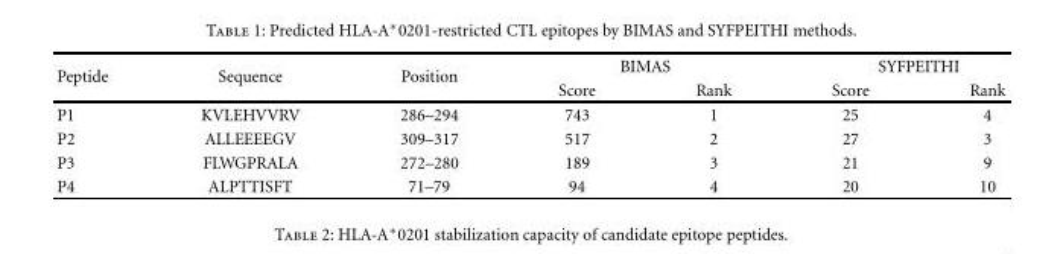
<table><thead><tr><td rowspan="2">Peptide</td><td rowspan="2">Sequence</td><td rowspan="2">Position</td><td colspan="2">BIMAS</td><td colspan="2">SYFPEITHI</td></tr><tr><td>Score</td><td>Rank</td><td>Score</td><td>Rank</td></tr></thead><tbody><tr><td>P1</td><td>KVLEHVVRV</td><td>286–294</td><td>743</td><td>1</td><td>25</td><td>4</td></tr><tr><td>P2</td><td>ALLEEEEGV</td><td>309–317</td><td>517</td><td>2</td><td>27</td><td>3</td></tr><tr><td>P3</td><td>FLWGPRALA</td><td>272–280</td><td>189</td><td>3</td><td>21</td><td>9</td></tr><tr><td>P4</td><td>ALPTTISFT</td><td>71–79</td><td>94</td><td>4</td><td>20</td><td>10</td></tr></tbody></table>